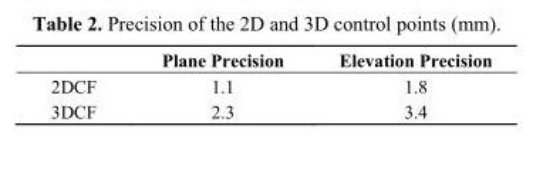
<table><thead><tr><td></td><td>Plane Precision</td><td>Elevation Precision</td></tr></thead><tbody><tr><td>2DCF</td><td>1.1</td><td>1.8</td></tr><tr><td>3DCF</td><td>2.3</td><td>3.4</td></tr></tbody></table>